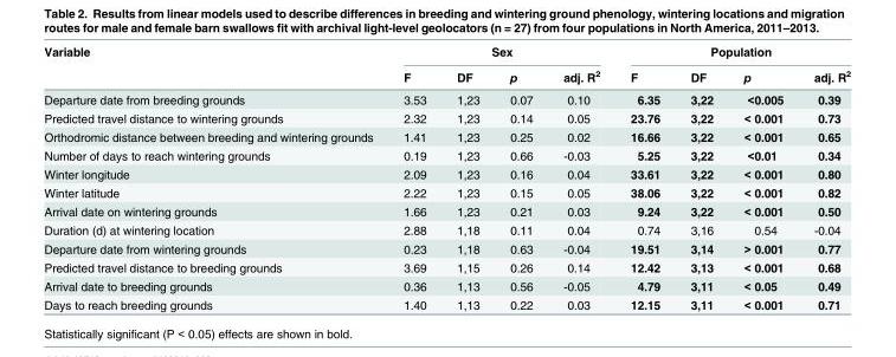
<table><thead><tr><td rowspan="2">Variable</td><td colspan="4">Sex</td><td colspan="4">Population</td></tr><tr><td>F</td><td>DF</td><td>p</td><td>adj. R<sup>2</sup></td><td>F</td><td>DF</td><td>p</td><td>adj. R<sup>2</sup></td></tr></thead><tbody><tr><td>Departure date from breeding grounds</td><td>3.53</td><td>1,23</td><td>0.07</td><td>0.10</td><td>6.35</td><td>3,22</td><td>&lt;0.005</td><td>0.39</td></tr><tr><td>Predicted travel distance to wintering grounds</td><td>2.32</td><td>1,23</td><td>0.14</td><td>0.05</td><td>23.76</td><td>3,22</td><td>&lt; 0.001</td><td>0.73</td></tr><tr><td>Orthodromic distance between breeding and wintering grounds</td><td>1.41</td><td>1,23</td><td>0.25</td><td>0.02</td><td>16.66</td><td>3,22</td><td>&lt; 0.001</td><td>0.65</td></tr><tr><td>Number of days to reach wintering grounds</td><td>0.19</td><td>1,23</td><td>0.66</td><td>-0.03</td><td>5.25</td><td>3,22</td><td>&lt;0.01</td><td>0.34</td></tr><tr><td>Winter longitude</td><td>2.09</td><td>1,23</td><td>0.16</td><td>0.04</td><td>33.61</td><td>3,22</td><td>&lt; 0.001</td><td>0.80</td></tr><tr><td>Winter latitude</td><td>2.22</td><td>1,23</td><td>0.15</td><td>0.05</td><td>38.06</td><td>3,22</td><td>&lt; 0.001</td><td>0.82</td></tr><tr><td>Arrival date on wintering grounds</td><td>1.66</td><td>1,23</td><td>0.21</td><td>0.03</td><td>9.24</td><td>3,22</td><td>&lt; 0.001</td><td>0.50</td></tr><tr><td>Duration (d) at wintering location</td><td>2.88</td><td>1,18</td><td>0.11</td><td>0.04</td><td>0.74</td><td>3,16</td><td>0.54</td><td>-0.04</td></tr><tr><td>Departure date from wintering grounds</td><td>0.23</td><td>1,18</td><td>0.63</td><td>-0.04</td><td>19.51</td><td>3,14</td><td>&gt; 0.001</td><td>0.77</td></tr><tr><td>Predicted travel distance to breeding grounds</td><td>3.69</td><td>1,15</td><td>0.26</td><td>0.14</td><td>12.42</td><td>3,13</td><td>&lt; 0.001</td><td>0.68</td></tr><tr><td>Arrival date to breeding grounds</td><td>0.36</td><td>1,13</td><td>0.56</td><td>-0.05</td><td>4.79</td><td>3,11</td><td>&lt; 0.05</td><td>0.49</td></tr><tr><td>Days to reach breeding grounds</td><td>1.40</td><td>1,13</td><td>0.22</td><td>0.03</td><td>12.15</td><td>3,11</td><td>&lt; 0.001</td><td>0.71</td></tr></tbody></table>